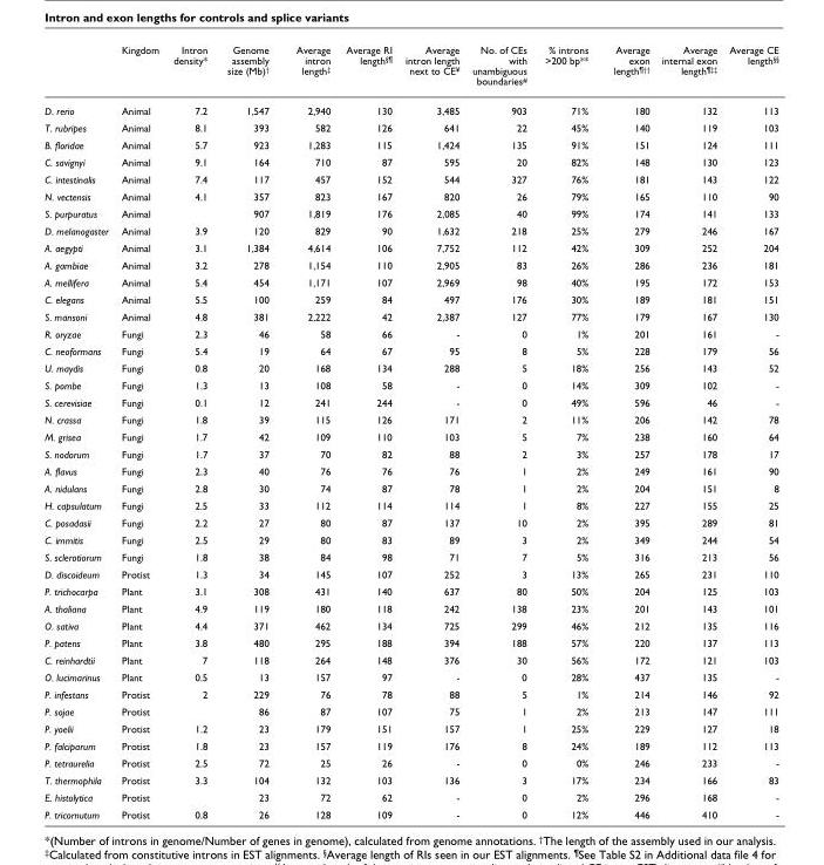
<table><thead><tr><td></td><td>Kingdom</td><td>Intron density*</td><td>Genome assembly size (Mb)<sup>†</sup></td><td>Average intron length<sup>‡</sup></td><td>Average RI length<sup>§¶</sup></td><td>Average intron length next to CE<sup>¥</sup></td><td>No. of CEs with unambiguous boundaries<sup>#</sup></td><td>% introns &gt;200 bp**</td><td>Average exon length<sup>¶††</sup></td><td>Average internal exon length<sup>¶‡‡</sup></td><td>Average CE length<sup>§§</sup></td></tr></thead><tbody><tr><td>D. rerio</td><td>Animal</td><td>7.2</td><td>1,547</td><td>2,940</td><td>130</td><td>3,485</td><td>903</td><td>71%</td><td>180</td><td>132</td><td>113</td></tr><tr><td>T. rubripes</td><td>Animal</td><td>8.1</td><td>393</td><td>582</td><td>126</td><td>641</td><td>22</td><td>45%</td><td>140</td><td>119</td><td>103</td></tr><tr><td>B. floridae</td><td>Animal</td><td>5.7</td><td>923</td><td>1,283</td><td>115</td><td>1,424</td><td>135</td><td>91%</td><td>151</td><td>124</td><td>111</td></tr><tr><td>C. savignyi</td><td>Animal</td><td>9.1</td><td>164</td><td>710</td><td>87</td><td>595</td><td>20</td><td>82%</td><td>148</td><td>130</td><td>123</td></tr><tr><td>C. intestinalis</td><td>Animal</td><td>7.4</td><td>117</td><td>457</td><td>152</td><td>544</td><td>327</td><td>76%</td><td>181</td><td>143</td><td>122</td></tr><tr><td>N. vectensis</td><td>Animal</td><td>4.1</td><td>357</td><td>823</td><td>167</td><td>820</td><td>26</td><td>79%</td><td>165</td><td>110</td><td>90</td></tr><tr><td>S. purpuratus</td><td>Animal</td><td></td><td>907</td><td>1,819</td><td>176</td><td>2,085</td><td>40</td><td>99%</td><td>174</td><td>141</td><td>133</td></tr><tr><td>D. melanogaster</td><td>Animal</td><td>3.9</td><td>120</td><td>829</td><td>90</td><td>1,632</td><td>218</td><td>25%</td><td>279</td><td>246</td><td>167</td></tr><tr><td>A. aegypti</td><td>Animal</td><td>3.1</td><td>1,384</td><td>4,614</td><td>106</td><td>7,752</td><td>112</td><td>42%</td><td>309</td><td>252</td><td>204</td></tr><tr><td>A. gambiae</td><td>Animal</td><td>3.2</td><td>278</td><td>1,154</td><td>110</td><td>2,905</td><td>83</td><td>26%</td><td>286</td><td>236</td><td>181</td></tr><tr><td>A. mellifera</td><td>Animal</td><td>5.4</td><td>454</td><td>1,171</td><td>107</td><td>2,969</td><td>98</td><td>40%</td><td>195</td><td>172</td><td>153</td></tr><tr><td>C. elegans</td><td>Animal</td><td>5.5</td><td>100</td><td>259</td><td>84</td><td>497</td><td>176</td><td>30%</td><td>189</td><td>181</td><td>151</td></tr><tr><td>S. mansoni</td><td>Animal</td><td>4.8</td><td>381</td><td>2,222</td><td>42</td><td>2,387</td><td>127</td><td>77%</td><td>179</td><td>167</td><td>130</td></tr><tr><td>R. oryzae</td><td>Fungi</td><td>2.3</td><td>46</td><td>58</td><td>66</td><td>-</td><td>0</td><td>1%</td><td>201</td><td>161</td><td>-</td></tr><tr><td>C. neoformans</td><td>Fungi</td><td>5.4</td><td>19</td><td>64</td><td>67</td><td>95</td><td>8</td><td>5%</td><td>228</td><td>179</td><td>56</td></tr><tr><td>U. maydis</td><td>Fungi</td><td>0.8</td><td>20</td><td>168</td><td>134</td><td>288</td><td>5</td><td>18%</td><td>256</td><td>143</td><td>52</td></tr><tr><td>S. pombe</td><td>Fungi</td><td>1.3</td><td>13</td><td>108</td><td>58</td><td>-</td><td>0</td><td>14%</td><td>309</td><td>102</td><td>-</td></tr><tr><td>S. cerevisiae</td><td>Fungi</td><td>0.1</td><td>12</td><td>241</td><td>244</td><td>-</td><td>0</td><td>49%</td><td>596</td><td>46</td><td>-</td></tr><tr><td>N. crassa</td><td>Fungi</td><td>1.8</td><td>39</td><td>115</td><td>126</td><td>171</td><td>2</td><td>11%</td><td>206</td><td>142</td><td>78</td></tr><tr><td>M. grisea</td><td>Fungi</td><td>1.7</td><td>42</td><td>109</td><td>110</td><td>103</td><td>5</td><td>7%</td><td>238</td><td>160</td><td>64</td></tr><tr><td>S. nodorum</td><td>Fungi</td><td>1.7</td><td>37</td><td>70</td><td>82</td><td>88</td><td>2</td><td>3%</td><td>257</td><td>178</td><td>17</td></tr><tr><td>A. flavus</td><td>Fungi</td><td>2.3</td><td>40</td><td>76</td><td>76</td><td>76</td><td>1</td><td>2%</td><td>249</td><td>161</td><td>90</td></tr><tr><td>A. nidulans</td><td>Fungi</td><td>2.8</td><td>30</td><td>74</td><td>87</td><td>78</td><td>1</td><td>2%</td><td>204</td><td>151</td><td>8</td></tr><tr><td>H. capsulatum</td><td>Fungi</td><td>2.5</td><td>33</td><td>112</td><td>114</td><td>114</td><td>1</td><td>8%</td><td>227</td><td>155</td><td>25</td></tr><tr><td>C. posadasii</td><td>Fungi</td><td>2.2</td><td>27</td><td>80</td><td>87</td><td>137</td><td>10</td><td>2%</td><td>395</td><td>289</td><td>81</td></tr><tr><td>C. immitis</td><td>Fungi</td><td>2.5</td><td>29</td><td>80</td><td>83</td><td>89</td><td>3</td><td>2%</td><td>349</td><td>244</td><td>54</td></tr><tr><td>S. sclerotiorum</td><td>Fungi</td><td>1.8</td><td>38</td><td>84</td><td>98</td><td>71</td><td>7</td><td>5%</td><td>316</td><td>213</td><td>56</td></tr><tr><td>D. discoideum</td><td>Protist</td><td>1.3</td><td>34</td><td>145</td><td>107</td><td>252</td><td>3</td><td>13%</td><td>265</td><td>231</td><td>110</td></tr><tr><td>P. trichocarpa</td><td>Plant</td><td>3.1</td><td>308</td><td>431</td><td>140</td><td>637</td><td>80</td><td>50%</td><td>204</td><td>125</td><td>103</td></tr><tr><td>A. thaliana</td><td>Plant</td><td>4.9</td><td>119</td><td>180</td><td>118</td><td>242</td><td>138</td><td>23%</td><td>201</td><td>143</td><td>101</td></tr><tr><td>O. sativa</td><td>Plant</td><td>4.4</td><td>371</td><td>462</td><td>134</td><td>725</td><td>299</td><td>46%</td><td>212</td><td>135</td><td>116</td></tr><tr><td>P. patens</td><td>Plant</td><td>3.8</td><td>480</td><td>295</td><td>188</td><td>394</td><td>188</td><td>57%</td><td>220</td><td>137</td><td>113</td></tr><tr><td>C. reinhardtii</td><td>Plant</td><td>7</td><td>118</td><td>264</td><td>148</td><td>376</td><td>30</td><td>56%</td><td>172</td><td>121</td><td>103</td></tr><tr><td>O. lucimarinus</td><td>Plant</td><td>0.5</td><td>13</td><td>157</td><td>97</td><td>-</td><td>0</td><td>28%</td><td>437</td><td>135</td><td>-</td></tr><tr><td>P. infestans</td><td>Protist</td><td>2</td><td>229</td><td>76</td><td>78</td><td>88</td><td>5</td><td>1%</td><td>214</td><td>146</td><td>92</td></tr><tr><td>P. sojae</td><td>Protist</td><td></td><td>86</td><td>87</td><td>107</td><td>75</td><td>1</td><td>2%</td><td>213</td><td>147</td><td>111</td></tr><tr><td>P. yoelii</td><td>Protist</td><td>1.2</td><td>23</td><td>179</td><td>151</td><td>157</td><td>1</td><td>25%</td><td>229</td><td>127</td><td>18</td></tr><tr><td>P. falciparum</td><td>Protist</td><td>1.8</td><td>23</td><td>157</td><td>119</td><td>176</td><td>8</td><td>24%</td><td>189</td><td>112</td><td>113</td></tr><tr><td>P. tetraurelia</td><td>Protist</td><td>2.5</td><td>72</td><td>25</td><td>26</td><td>-</td><td>0</td><td>0%</td><td>246</td><td>233</td><td>-</td></tr><tr><td>T. thermophila</td><td>Protist</td><td>3.3</td><td>104</td><td>132</td><td>103</td><td>136</td><td>3</td><td>17%</td><td>234</td><td>166</td><td>83</td></tr><tr><td>E. histolytica</td><td>Protist</td><td></td><td>23</td><td>72</td><td>62</td><td>-</td><td>0</td><td>2%</td><td>296</td><td>168</td><td>-</td></tr><tr><td>P. tricornutum</td><td>Protist</td><td>0.8</td><td>26</td><td>128</td><td>109</td><td>-</td><td>0</td><td>12%</td><td>446</td><td>410</td><td>-</td></tr></tbody></table>